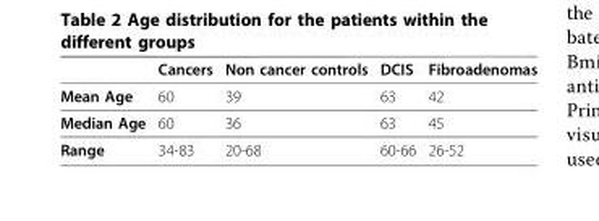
<table><thead><tr><td></td><td>Cancers</td><td>Non cancer controls</td><td>DCIS</td><td>Fibroadenomas</td></tr></thead><tbody><tr><td>Mean Age</td><td>60</td><td>39</td><td>63</td><td>42</td></tr><tr><td>Median Age</td><td>60</td><td>36</td><td>63</td><td>45</td></tr><tr><td>Range</td><td>34-83</td><td>20-68</td><td>60-66</td><td>26-52</td></tr></tbody></table>